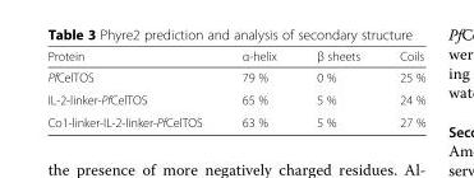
<table><thead><tr><td>Protein</td><td>α-helix</td><td>β sheets</td><td>Coils</td></tr></thead><tbody><tr><td>PfCelTOS</td><td>79 %</td><td>0 %</td><td>25 %</td></tr><tr><td>IL-2-linker-PfCelTOS</td><td>65 %</td><td>5 %</td><td>24 %</td></tr><tr><td>Co1-linker-IL-2-linker-PfCelTOS</td><td>63 %</td><td>5 %</td><td>27 %</td></tr></tbody></table>